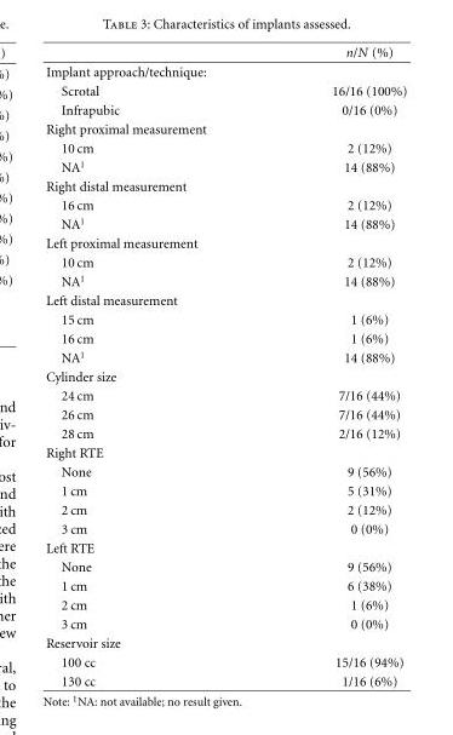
<table><thead><tr><td></td><td>n/N (%)</td></tr></thead><tbody><tr><td colspan="2">Implant approach/technique:</td></tr><tr><td>Scrotal</td><td>16/16 (100%)</td></tr><tr><td>Infrapubic</td><td>0/16 (0%)</td></tr><tr><td colspan="2">Right proximal measurement</td></tr><tr><td>10 cm</td><td>2 (12%)</td></tr><tr><td>NA<sup>1</sup></td><td>14 (88%)</td></tr><tr><td colspan="2">Right distal measurement</td></tr><tr><td>16 cm</td><td>2 (12%)</td></tr><tr><td>NA<sup>1</sup></td><td>14 (88%)</td></tr><tr><td colspan="2">Left proximal measurement</td></tr><tr><td>10 cm</td><td>2 (12%)</td></tr><tr><td>NA<sup>1</sup></td><td>14 (88%)</td></tr><tr><td colspan="2">Left distal measurement</td></tr><tr><td>15 cm</td><td>1 (6%)</td></tr><tr><td>16 cm</td><td>1 (6%)</td></tr><tr><td>NA<sup>1</sup></td><td>14 (88%)</td></tr><tr><td colspan="2">Cylinder size</td></tr><tr><td>24 cm</td><td>7/16 (44%)</td></tr><tr><td>26 cm</td><td>7/16 (44%)</td></tr><tr><td>28 cm</td><td>2/16 (12%)</td></tr><tr><td colspan="2">Right RTE</td></tr><tr><td>None</td><td>9 (56%)</td></tr><tr><td>1 cm</td><td>5 (31%)</td></tr><tr><td>2 cm</td><td>2 (12%)</td></tr><tr><td>3 cm</td><td>0 (0%)</td></tr><tr><td colspan="2">Left RTE</td></tr><tr><td>None</td><td>9 (56%)</td></tr><tr><td>1 cm</td><td>6 (38%)</td></tr><tr><td>2 cm</td><td>1 (6%)</td></tr><tr><td>3 cm</td><td>0 (0%)</td></tr><tr><td colspan="2">Reservoir size</td></tr><tr><td>100 cc</td><td>15/16 (94%)</td></tr><tr><td>130 cc</td><td>1/16 (6%)</td></tr></tbody></table>